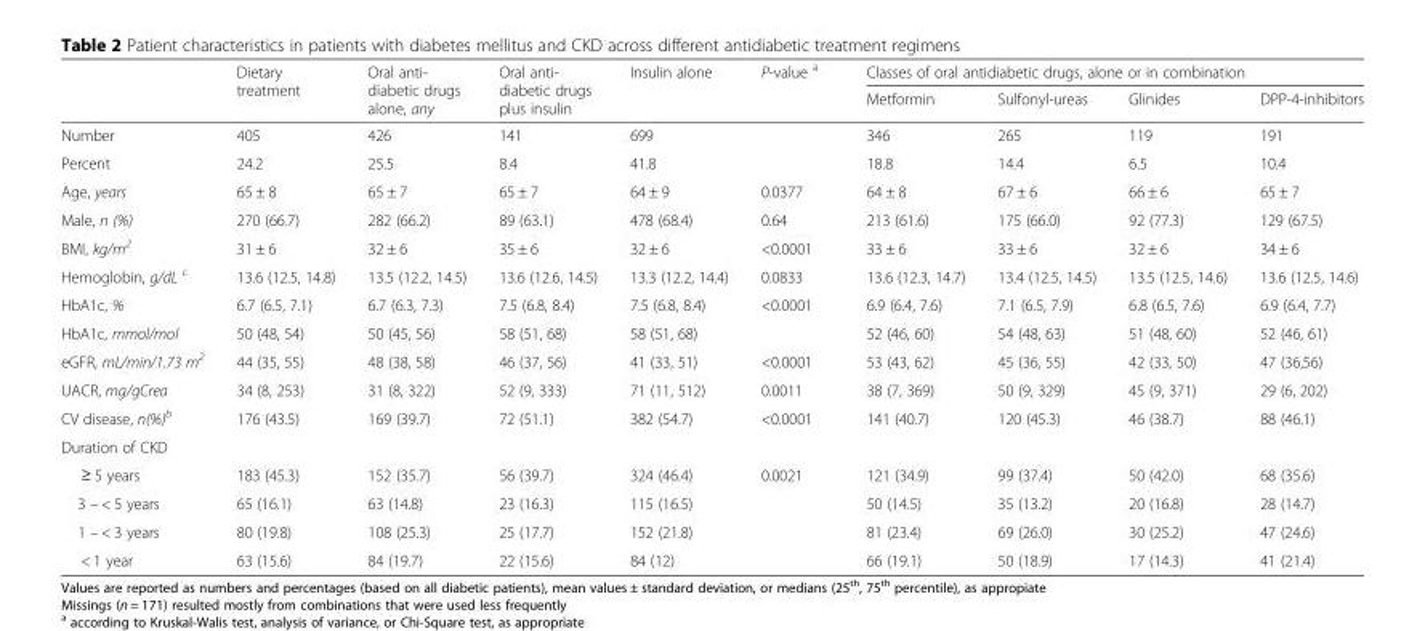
<table><thead><tr><td rowspan="2"></td><td rowspan="2">Dietary treatment</td><td rowspan="2">Oral anti- diabetic drugs alone, any</td><td rowspan="2">Oral anti- diabetic drugs plus insulin</td><td rowspan="2">Insulin alone</td><td rowspan="2">P-value <sup>a</sup></td><td colspan="4">Classes of oral antidiabetic drugs, alone or in combination</td></tr><tr><td>Metformin</td><td>Sulfonyl-ureas</td><td>Glinides</td><td>DPP-4-inhibitors</td></tr></thead><tbody><tr><td>Number</td><td>405</td><td>426</td><td>141</td><td>699</td><td></td><td>346</td><td>265</td><td>119</td><td>191</td></tr><tr><td>Percent</td><td>24.2</td><td>25.5</td><td>8.4</td><td>41.8</td><td></td><td>18.8</td><td>14.4</td><td>6.5</td><td>10.4</td></tr><tr><td>Age, years</td><td>65 ± 8</td><td>65 ± 7</td><td>65 ± 7</td><td>64 ± 9</td><td>0.0377</td><td>64 ± 8</td><td>67 ± 6</td><td>66 ± 6</td><td>65 ± 7</td></tr><tr><td>Male, n (%)</td><td>270 (66.7)</td><td>282 (66.2)</td><td>89 (63.1)</td><td>478 (68.4)</td><td>0.64</td><td>213 (61.6)</td><td>175 (66.0)</td><td>92 (77.3)</td><td>129 (67.5)</td></tr><tr><td>BMI, kg/m<sup>2</sup></td><td>31 ± 6</td><td>32 ± 6</td><td>35 ± 6</td><td>32 ± 6</td><td>&lt;0.0001</td><td>33 ± 6</td><td>33 ± 6</td><td>32 ± 6</td><td>34 ± 6</td></tr><tr><td>Hemoglobin, g/dL <sup>c</sup></td><td>13.6 (12.5, 14.8)</td><td>13.5 (12.2, 14.5)</td><td>13.6 (12.6, 14.5)</td><td>13.3 (12.2, 14.4)</td><td>0.0833</td><td>13.6 (12.3, 14.7)</td><td>13.4 (12.5, 14.5)</td><td>13.5 (12.5, 14.6)</td><td>13.6 (12.5, 14.6)</td></tr><tr><td>HbA1c, %</td><td>6.7 (6.5, 7.1)</td><td>6.7 (6.3, 7.3)</td><td>7.5 (6.8, 8.4)</td><td>7.5 (6.8, 8.4)</td><td rowspan="2">&lt;0.0001</td><td>6.9 (6.4, 7.6)</td><td>7.1 (6.5, 7.9)</td><td>6.8 (6.5, 7.6)</td><td>6.9 (6.4, 7.7)</td></tr><tr><td>HbA1c, mmol/mol</td><td>50 (48, 54)</td><td>50 (45, 56)</td><td>58 (51, 68)</td><td>58 (51, 68)</td><td>52 (46, 60)</td><td>54 (48, 63)</td><td>51 (48, 60)</td><td>52 (46, 61)</td></tr><tr><td>eGFR, mL/min/1.73 m<sup>2</sup></td><td>44 (35, 55)</td><td>48 (38, 58)</td><td>46 (37, 56)</td><td>41 (33, 51)</td><td>&lt;0.0001</td><td>53 (43, 62)</td><td>45 (36, 55)</td><td>42 (33, 50)</td><td>47 (36,56)</td></tr><tr><td>UACR, mg/gCrea</td><td>34 (8, 253)</td><td>31 (8, 322)</td><td>52 (9, 333)</td><td>71 (11, 512)</td><td>0.0011</td><td>38 (7, 369)</td><td>50 (9, 329)</td><td>45 (9, 371)</td><td>29 (6, 202)</td></tr><tr><td>CV disease, n(%)<sup>b</sup></td><td>176 (43.5)</td><td>169 (39.7)</td><td>72 (51.1)</td><td>382 (54.7)</td><td>&lt;0.0001</td><td>141 (40.7)</td><td>120 (45.3)</td><td>46 (38.7)</td><td>88 (46.1)</td></tr><tr><td colspan="10">Duration of CKD</td></tr><tr><td>≥ 5 years</td><td>183 (45.3)</td><td>152 (35.7)</td><td>56 (39.7)</td><td>324 (46.4)</td><td rowspan="4">0.0021</td><td>121 (34.9)</td><td>99 (37.4)</td><td>50 (42.0)</td><td>68 (35.6)</td></tr><tr><td>3 – &lt; 5 years</td><td>65 (16.1)</td><td>63 (14.8)</td><td>23 (16.3)</td><td>115 (16.5)</td><td>50 (14.5)</td><td>35 (13.2)</td><td>20 (16.8)</td><td>28 (14.7)</td></tr><tr><td>1 – &lt; 3 years</td><td>80 (19.8)</td><td>108 (25.3)</td><td>25 (17.7)</td><td>152 (21.8)</td><td>81 (23.4)</td><td>69 (26.0)</td><td>30 (25.2)</td><td>47 (24.6)</td></tr><tr><td>&lt; 1 year</td><td>63 (15.6)</td><td>84 (19.7)</td><td>22 (15.6)</td><td>84 (12)</td><td>66 (19.1)</td><td>50 (18.9)</td><td>17 (14.3)</td><td>41 (21.4)</td></tr></tbody></table>